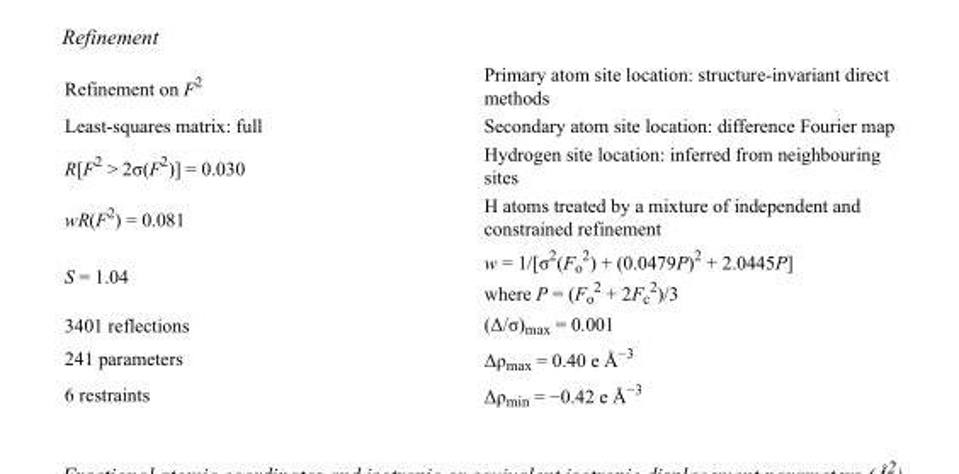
<table><tbody><tr><td>Refinement on F<sup>2</sup></td><td>Primary atom site location: structure-invariant direct methods</td></tr><tr><td>Least-squares matrix: full</td><td>Secondary atom site location: difference Fourier map</td></tr><tr><td>R[F<sup>2</sup> &gt; 2σ(F<sup>2</sup>)] = 0.030</td><td>Hydrogen site location: inferred from neighbouring sites</td></tr><tr><td>wR(F<sup>2</sup>) = 0.081</td><td>H atoms treated by a mixture of independent and constrained refinement</td></tr><tr><td>S = 1.04</td><td>w = 1/[σ<sup>2</sup>(F<sub>o</sub> <sup>2</sup>) + (0.0479P)<sup>2</sup> + 2.0445P] where P = (F<sub>o</sub> <sup>2</sup> + 2F<sub>c</sub> <sup>2</sup>)/3</td></tr><tr><td>3401 reflections</td><td>(Δ/σ)<sub>max</sub> = 0.001</td></tr><tr><td>241 parameters</td><td>Δρ<sub>max</sub> = 0.40 e Å<sup>−3</sup></td></tr><tr><td>6 restraints</td><td>Δρ<sub>min</sub> = −0.42 e Å<sup>−3</sup></td></tr></tbody></table>